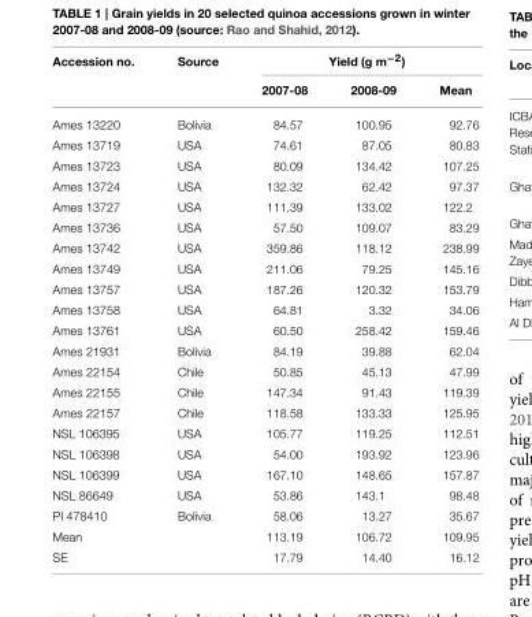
<table><thead><tr><td rowspan="2">Accession no.</td><td rowspan="2">Source</td><td colspan="3">Yield (g m<sup>−2</sup>)</td></tr><tr><td>2007-08</td><td>2008-09</td><td>Mean</td></tr></thead><tbody><tr><td>Ames 13220</td><td>Bolivia</td><td>84.57</td><td>100.95</td><td>92.76</td></tr><tr><td>Ames 13719</td><td>USA</td><td>74.61</td><td>87.05</td><td>80.83</td></tr><tr><td>Ames 13723</td><td>USA</td><td>80.09</td><td>134.42</td><td>107.25</td></tr><tr><td>Ames 13724</td><td>USA</td><td>132.32</td><td>62.42</td><td>97.37</td></tr><tr><td>Ames 13727</td><td>USA</td><td>111.39</td><td>133.02</td><td>122.2</td></tr><tr><td>Ames 13736</td><td>USA</td><td>57.50</td><td>109.07</td><td>83.29</td></tr><tr><td>Ames 13742</td><td>USA</td><td>359.86</td><td>118.12</td><td>238.99</td></tr><tr><td>Ames 13749</td><td>USA</td><td>211.06</td><td>79.25</td><td>145.16</td></tr><tr><td>Ames 13757</td><td>USA</td><td>187.26</td><td>120.32</td><td>153.79</td></tr><tr><td>Ames 13758</td><td>USA</td><td>64.81</td><td>3.32</td><td>34.06</td></tr><tr><td>Ames 13761</td><td>USA</td><td>60.50</td><td>258.42</td><td>159.46</td></tr><tr><td>Ames 21931</td><td>Bolivia</td><td>84.19</td><td>39.88</td><td>62.04</td></tr><tr><td>Ames 22154</td><td>Chile</td><td>50.85</td><td>45.13</td><td>47.99</td></tr><tr><td>Ames 22155</td><td>Chile</td><td>147.34</td><td>91.43</td><td>119.39</td></tr><tr><td>Ames 22157</td><td>Chile</td><td>118.58</td><td>133.33</td><td>125.95</td></tr><tr><td>NSL 106395</td><td>USA</td><td>105.77</td><td>119.25</td><td>112.51</td></tr><tr><td>NSL 106398</td><td>USA</td><td>54.00</td><td>193.92</td><td>123.96</td></tr><tr><td>NSL 106399</td><td>USA</td><td>167.10</td><td>148.65</td><td>157.87</td></tr><tr><td>NSL 86649</td><td>USA</td><td>53.86</td><td>143.1</td><td>98.48</td></tr><tr><td>PI 478410</td><td>Bolivia</td><td>58.06</td><td>13.27</td><td>35.67</td></tr><tr><td>Mean</td><td></td><td>113.19</td><td>106.72</td><td>109.95</td></tr><tr><td>SE</td><td></td><td>17.79</td><td>14.40</td><td>16.12</td></tr></tbody></table>